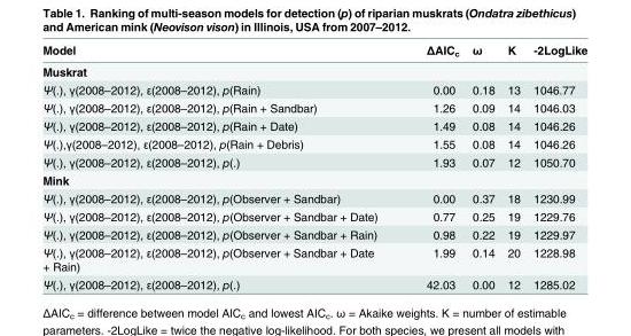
<table><thead><tr><td>Model</td><td>ΔAIC<sub>c</sub></td><td>ω</td><td>K</td><td>-2LogLike</td></tr></thead><tbody><tr><td colspan="5">Muskrat</td></tr><tr><td>Ψ(.), γ(2008–2012), ε(2008–2012), p(Rain)</td><td>0.00</td><td>0.18</td><td>13</td><td>1046.77</td></tr><tr><td>Ψ(.), γ(2008–2012), ε(2008–2012), p(Rain + Sandbar)</td><td>1.26</td><td>0.09</td><td>14</td><td>1046.03</td></tr><tr><td>Ψ(.), γ(2008–2012), ε(2008–2012), p(Rain + Date)</td><td>1.49</td><td>0.08</td><td>14</td><td>1046.26</td></tr><tr><td>Ψ(.),γ(2008–2012), ε(2008–2012), p(Rain + Debris)</td><td>1.55</td><td>0.08</td><td>14</td><td>1046.26</td></tr><tr><td>Ψ(.), γ(2008–2012), ε(2008–2012), p(.)</td><td>1.93</td><td>0.07</td><td>12</td><td>1050.70</td></tr><tr><td colspan="5">Mink</td></tr><tr><td>Ψ(.), γ(2008–2012), ε(2008–2012), p(Observer + Sandbar)</td><td>0.00</td><td>0.37</td><td>18</td><td>1230.99</td></tr><tr><td>Ψ(.), γ(2008–2012), ε(2008–2012), p(Observer + Sandbar + Date)</td><td>0.77</td><td>0.25</td><td>19</td><td>1229.76</td></tr><tr><td>Ψ(.), γ(2008–2012), ε(2008–2012), p(Observer + Sandbar + Rain)</td><td>0.98</td><td>0.22</td><td>19</td><td>1229.97</td></tr><tr><td>Ψ(.), γ(2008–2012), ε(2008–2012), p(Observer + Sandbar + Date + Rain)</td><td>1.99</td><td>0.14</td><td>20</td><td>1228.98</td></tr><tr><td>Ψ(.), γ(2008–2012), ε(2008–2012), p(.)</td><td>42.03</td><td>0.00</td><td>12</td><td>1285.02</td></tr></tbody></table>